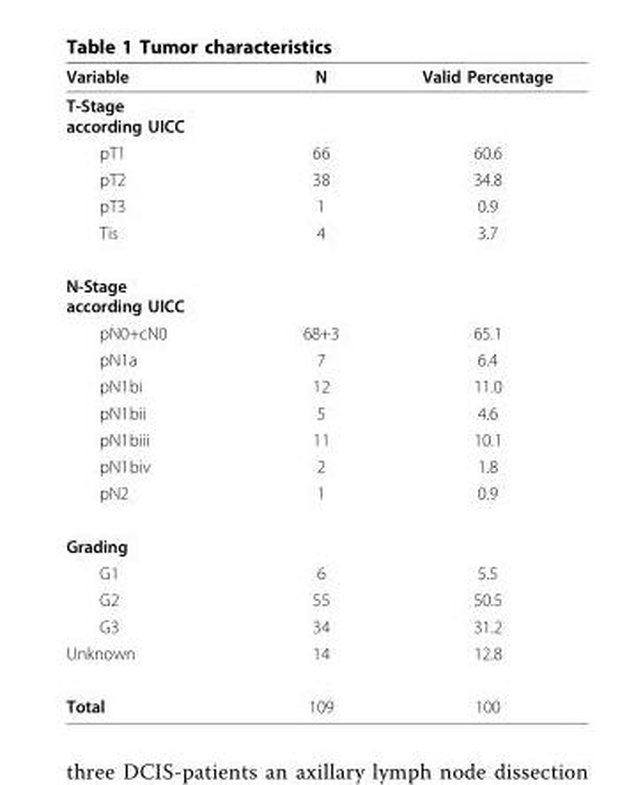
<table><thead><tr><td>Variable</td><td>N</td><td>Valid Percentage</td></tr></thead><tbody><tr><td colspan="3">T-Stage according UICC</td></tr><tr><td>pT1</td><td>66</td><td>60.6</td></tr><tr><td>pT2</td><td>38</td><td>34.8</td></tr><tr><td>pT3</td><td>1</td><td>0.9</td></tr><tr><td>Tis</td><td>4</td><td>3.7</td></tr><tr><td colspan="3">N-Stage according UICC</td></tr><tr><td>pN0+cN0</td><td>68+3</td><td>65.1</td></tr><tr><td>pN1a</td><td>7</td><td>6.4</td></tr><tr><td>pN1bi</td><td>12</td><td>11.0</td></tr><tr><td>pN1bii</td><td>5</td><td>4.6</td></tr><tr><td>pN1biii</td><td>11</td><td>10.1</td></tr><tr><td>pN1biv</td><td>2</td><td>1.8</td></tr><tr><td>pN2</td><td>1</td><td>0.9</td></tr><tr><td colspan="3">Grading</td></tr><tr><td>G1</td><td>6</td><td>5.5</td></tr><tr><td>G2</td><td>55</td><td>50.5</td></tr><tr><td>G3</td><td>34</td><td>31.2</td></tr><tr><td>Unknown</td><td>14</td><td>12.8</td></tr><tr><td>Total</td><td>109</td><td>100</td></tr></tbody></table>